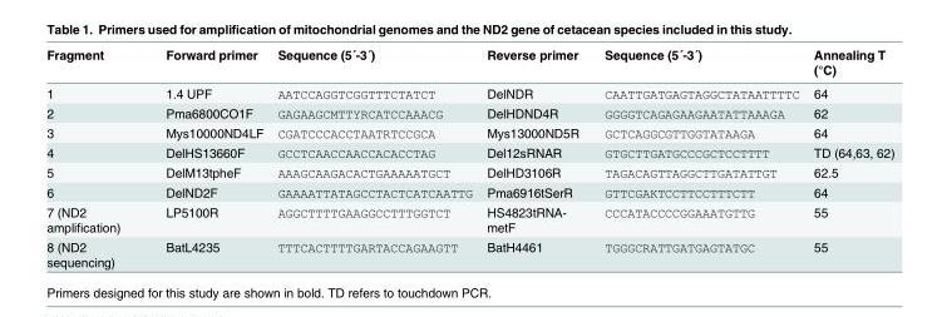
<table><thead><tr><td>Fragment</td><td>Forward primer</td><td>Sequence (5´-3´)</td><td>Reverse primer</td><td>Sequence (5´-3´)</td><td>Annealing T (°C)</td></tr></thead><tbody><tr><td>1</td><td>1.4 UPF</td><td>AATCCAGGTCGGTTTCTATCT</td><td>DelNDR</td><td>CAATTGATGAGTAGGCTATAATTTTC</td><td>64</td></tr><tr><td>2</td><td>Pma6800CO1F</td><td>GAGAAGCMTTYRCATCCAAACG</td><td>DelHDND4R</td><td>GGGGTCAGAGAAGAATATTAAAGA</td><td>62</td></tr><tr><td>3</td><td>Mys10000ND4LF</td><td>CGATCCCACCTAATRTCCGCA</td><td>Mys13000ND5R</td><td>GCTCAGGCGTTGGTATAAGA</td><td>64</td></tr><tr><td>4</td><td>DelHS13660F</td><td>GCCTCAACCAACCACACCTAG</td><td>Del12sRNAR</td><td>GTGCTTGATGCCCGCTCCTTTT</td><td>TD (64,63, 62)</td></tr><tr><td>5</td><td>DelM13tpheF</td><td>AAAGCAAGACACTGAAAAATGCT</td><td>DelHD3106R</td><td>TAGACAGTTAGGCTTGATATTGT</td><td>62.5</td></tr><tr><td>6</td><td>DelND2F</td><td>GAAAATTATAGCCTACTCATCAATTG</td><td>Pma6916tSerR</td><td>GTTCGAKTCCTTCCTTTCTT</td><td>64</td></tr><tr><td>7 (ND2 amplification)</td><td>LP5100R</td><td>AGGCTTTTGAAGGCCTTTGGTCT</td><td>HS4823tRNA- metF</td><td>CCCATACCCCGGAAATGTTG</td><td>55</td></tr><tr><td>8 (ND2 sequencing)</td><td>BatL4235</td><td>TTTCACTTTTGARTACCAGAAGTT</td><td>BatH4461</td><td>TGGGCRATTGATGAGTATGC</td><td>55</td></tr></tbody></table>